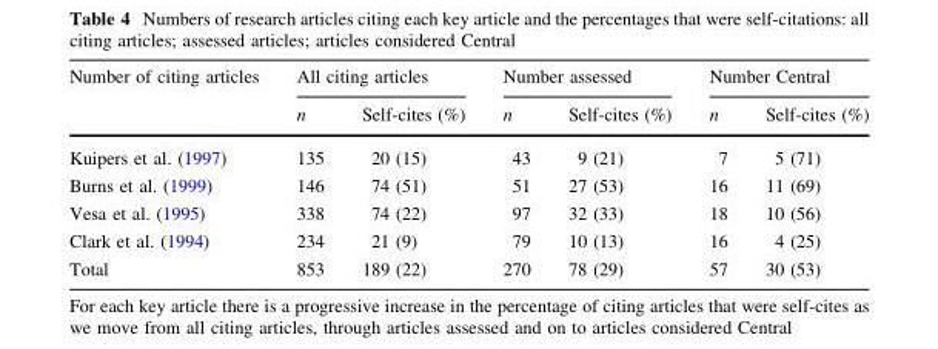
<table><thead><tr><td rowspan="2">Number of citing articles</td><td colspan="2">All citing articles</td><td colspan="2">Number assessed</td><td colspan="2">Number Central</td></tr><tr><td>n</td><td>Self-cites (%)</td><td>n</td><td>Self-cites (%)</td><td>n</td><td>Self-cites (%)</td></tr></thead><tbody><tr><td>Kuipers et al. (1997)</td><td>135</td><td>20 (15)</td><td>43</td><td>9 (21)</td><td>7</td><td>5 (71)</td></tr><tr><td>Burns et al. (1999)</td><td>146</td><td>74 (51)</td><td>51</td><td>27 (53)</td><td>16</td><td>11 (69)</td></tr><tr><td>Vesa et al. (1995)</td><td>338</td><td>74 (22)</td><td>97</td><td>32 (33)</td><td>18</td><td>10 (56)</td></tr><tr><td>Clark et al. (1994)</td><td>234</td><td>21 (9)</td><td>79</td><td>10 (13)</td><td>16</td><td>4 (25)</td></tr><tr><td>Total</td><td>853</td><td>189 (22)</td><td>270</td><td>78 (29)</td><td>57</td><td>30 (53)</td></tr></tbody></table>